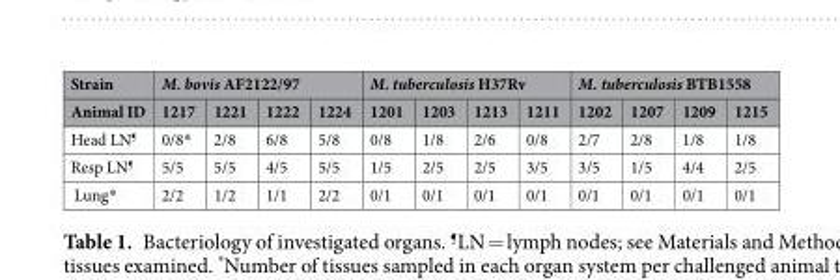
<table><thead><tr><td rowspan="2">Strain Animal ID</td><td colspan="4">M. bovis AF2122/97</td><td colspan="4">M. tuberculosis H37Rv</td><td colspan="4">M. tuberculosis BTB1558</td></tr><tr><td>1217</td><td>1221</td><td>1222</td><td>1224</td><td>1201</td><td>1203</td><td>1213</td><td>1211</td><td>1202</td><td>1207</td><td>1209</td><td>1215</td></tr></thead><tbody><tr><td>Head LN<sup>¶</sup></td><td>0/8*</td><td>2/8</td><td>6/8</td><td>5/8</td><td>0/8</td><td>1/8</td><td>2/6</td><td>0/8</td><td>2/7</td><td>2/8</td><td>1/8</td><td>1/8</td></tr><tr><td>Resp LN<sup>¶</sup></td><td>5/5</td><td>5/5</td><td>4/5</td><td>5/5</td><td>1/5</td><td>2/5</td><td>2/5</td><td>3/5</td><td>3/5</td><td>1/5</td><td>4/4</td><td>2/5</td></tr><tr><td>Lung*</td><td>2/2</td><td>1/2</td><td>1/1</td><td>2/2</td><td>0/1</td><td>0/1</td><td>0/1</td><td>0/1</td><td>0/1</td><td>0/1</td><td>0/1</td><td>0/1</td></tr></tbody></table>